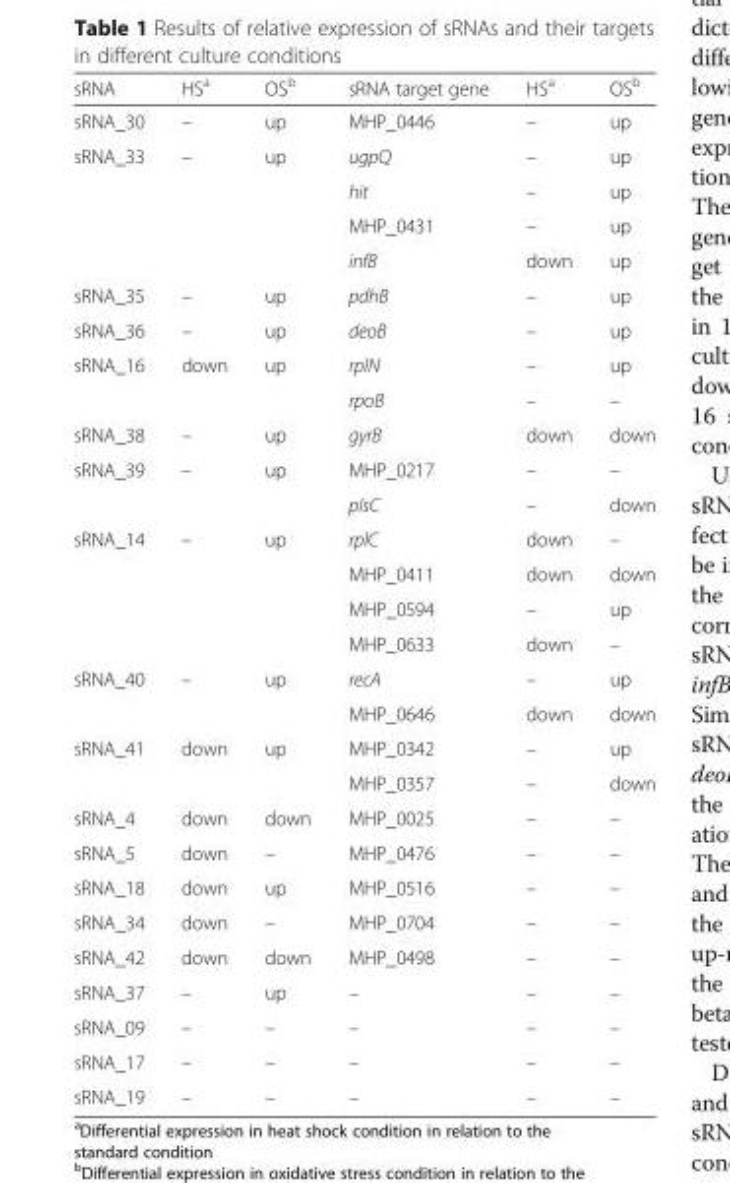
<table><thead><tr><td>sRNA</td><td>HS<sup>a</sup></td><td>OS<sup>b</sup></td><td>sRNA target gene</td><td>HS<sup>a</sup></td><td>OS<sup>b</sup></td></tr></thead><tbody><tr><td>sRNA_30</td><td>–</td><td>up</td><td>MHP_0446</td><td>–</td><td>up</td></tr><tr><td rowspan="4">sRNA_33</td><td rowspan="4">–</td><td rowspan="4">up</td><td>ugpQ</td><td>–</td><td>up</td></tr><tr><td>hit</td><td>–</td><td>up</td></tr><tr><td>MHP_0431</td><td>–</td><td>up</td></tr><tr><td>infB</td><td>down</td><td>up</td></tr><tr><td>sRNA_35</td><td>–</td><td>up</td><td>pdhB</td><td>–</td><td>up</td></tr><tr><td>sRNA_36</td><td>–</td><td>up</td><td>deoB</td><td>–</td><td>up</td></tr><tr><td rowspan="2">sRNA_16</td><td rowspan="2">down</td><td rowspan="2">up</td><td>rplN</td><td>–</td><td>up</td></tr><tr><td>rpoB</td><td>–</td><td>–</td></tr><tr><td>sRNA_38</td><td>–</td><td>up</td><td>gyrB</td><td>down</td><td>down</td></tr><tr><td rowspan="2">sRNA_39</td><td rowspan="2">–</td><td rowspan="2">up</td><td>MHP_0217</td><td>–</td><td>–</td></tr><tr><td>plsC</td><td>–</td><td>down</td></tr><tr><td rowspan="4">sRNA_14</td><td rowspan="4">–</td><td rowspan="4">up</td><td>rplC</td><td>down</td><td>–</td></tr><tr><td>MHP_0411</td><td>down</td><td>down</td></tr><tr><td>MHP_0594</td><td>–</td><td>up</td></tr><tr><td>MHP_0633</td><td>down</td><td>–</td></tr><tr><td rowspan="2">sRNA_40</td><td rowspan="2">–</td><td rowspan="2">up</td><td>recA</td><td>–</td><td>up</td></tr><tr><td>MHP_0646</td><td>down</td><td>down</td></tr><tr><td rowspan="2">sRNA_41</td><td rowspan="2">down</td><td rowspan="2">up</td><td>MHP_0342</td><td>–</td><td>up</td></tr><tr><td>MHP_0357</td><td>–</td><td>down</td></tr><tr><td>sRNA_4</td><td>down</td><td>down</td><td>MHP_0025</td><td>–</td><td>–</td></tr><tr><td>sRNA_5</td><td>down</td><td>–</td><td>MHP_0476</td><td>–</td><td>–</td></tr><tr><td>sRNA_18</td><td>down</td><td>up</td><td>MHP_0516</td><td>–</td><td>–</td></tr><tr><td>sRNA_34</td><td>down</td><td>–</td><td>MHP_0704</td><td>–</td><td>–</td></tr><tr><td>sRNA_42</td><td>down</td><td>down</td><td>MHP_0498</td><td>–</td><td>–</td></tr><tr><td>sRNA_37</td><td>–</td><td>up</td><td>–</td><td>–</td><td>–</td></tr><tr><td>sRNA_09</td><td>–</td><td>–</td><td>–</td><td>–</td><td>–</td></tr><tr><td>sRNA_17</td><td>–</td><td>–</td><td>–</td><td>–</td><td>–</td></tr><tr><td>sRNA_19</td><td>–</td><td>–</td><td>–</td><td>–</td><td>–</td></tr></tbody></table>